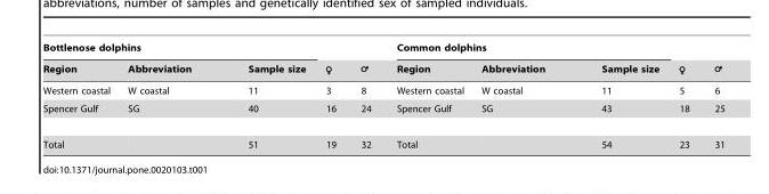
<table><thead><tr><td colspan="3">Bottlenose dolphins</td><td rowspan="2">♀</td><td rowspan="2">=</td><td colspan="3">Common dolphins</td><td rowspan="2">♀</td><td rowspan="2">=</td></tr><tr><td>Region</td><td>Abbreviation</td><td>Sample size</td><td>Region</td><td>Abbreviation</td><td>Sample size</td></tr></thead><tbody><tr><td>Western coastal</td><td>W coastal</td><td>11</td><td>3</td><td>8</td><td>Western coastal</td><td>W coastal</td><td>11</td><td>5</td><td>6</td></tr><tr><td>Spencer Gulf</td><td>SG</td><td>40</td><td>16</td><td>24</td><td>Spencer Gulf</td><td>SG</td><td>43</td><td>18</td><td>25</td></tr><tr><td>Total</td><td></td><td>51</td><td>19</td><td>32</td><td>Total</td><td></td><td>54</td><td>23</td><td>31</td></tr></tbody></table>